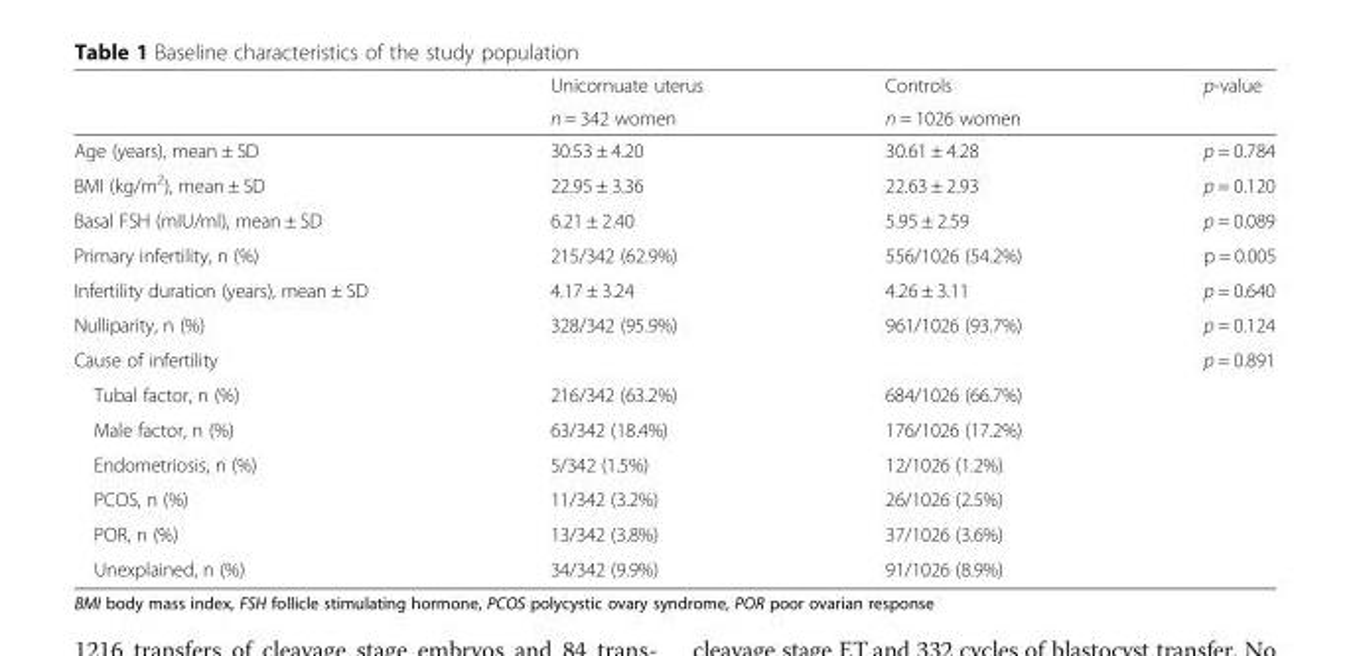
<table><thead><tr><td rowspan="2"></td><td rowspan="2">Unicornuate uterus n = 342 women</td><td rowspan="2">Controls n = 1026 women</td><td rowspan="2">p-value</td></tr><tr></tr></thead><tbody><tr><td>Age (years), mean ± SD</td><td>30.53 ± 4.20</td><td>30.61 ± 4.28</td><td>p = 0.784</td></tr><tr><td>BMI (kg/m<sup>2</sup>), mean ± SD</td><td>22.95 ± 3.36</td><td>22.63 ± 2.93</td><td>p = 0.120</td></tr><tr><td>Basal FSH (mIU/ml), mean ± SD</td><td>6.21 ± 2.40</td><td>5.95 ± 2.59</td><td>p = 0.089</td></tr><tr><td>Primary infertility, n (%)</td><td>215/342 (62.9%)</td><td>556/1026 (54.2%)</td><td>p = 0.005</td></tr><tr><td>Infertility duration (years), mean ± SD</td><td>4.17 ± 3.24</td><td>4.26 ± 3.11</td><td>p = 0.640</td></tr><tr><td>Nulliparity, n (%)</td><td>328/342 (95.9%)</td><td>961/1026 (93.7%)</td><td>p = 0.124</td></tr><tr><td>Cause of infertility</td><td></td><td></td><td>p = 0.891</td></tr><tr><td>Tubal factor, n (%)</td><td>216/342 (63.2%)</td><td>684/1026 (66.7%)</td><td></td></tr><tr><td>Male factor, n (%)</td><td>63/342 (18.4%)</td><td>176/1026 (17.2%)</td><td></td></tr><tr><td>Endometriosis, n (%)</td><td>5/342 (1.5%)</td><td>12/1026 (1.2%)</td><td></td></tr><tr><td>PCOS, n (%)</td><td>11/342 (3.2%)</td><td>26/1026 (2.5%)</td><td></td></tr><tr><td>POR, n (%)</td><td>13/342 (3.8%)</td><td>37/1026 (3.6%)</td><td rowspan="2"></td></tr><tr><td>Unexplained, n (%)</td><td>34/342 (9.9%)</td><td>91/1026 (8.9%)</td></tr></tbody></table>